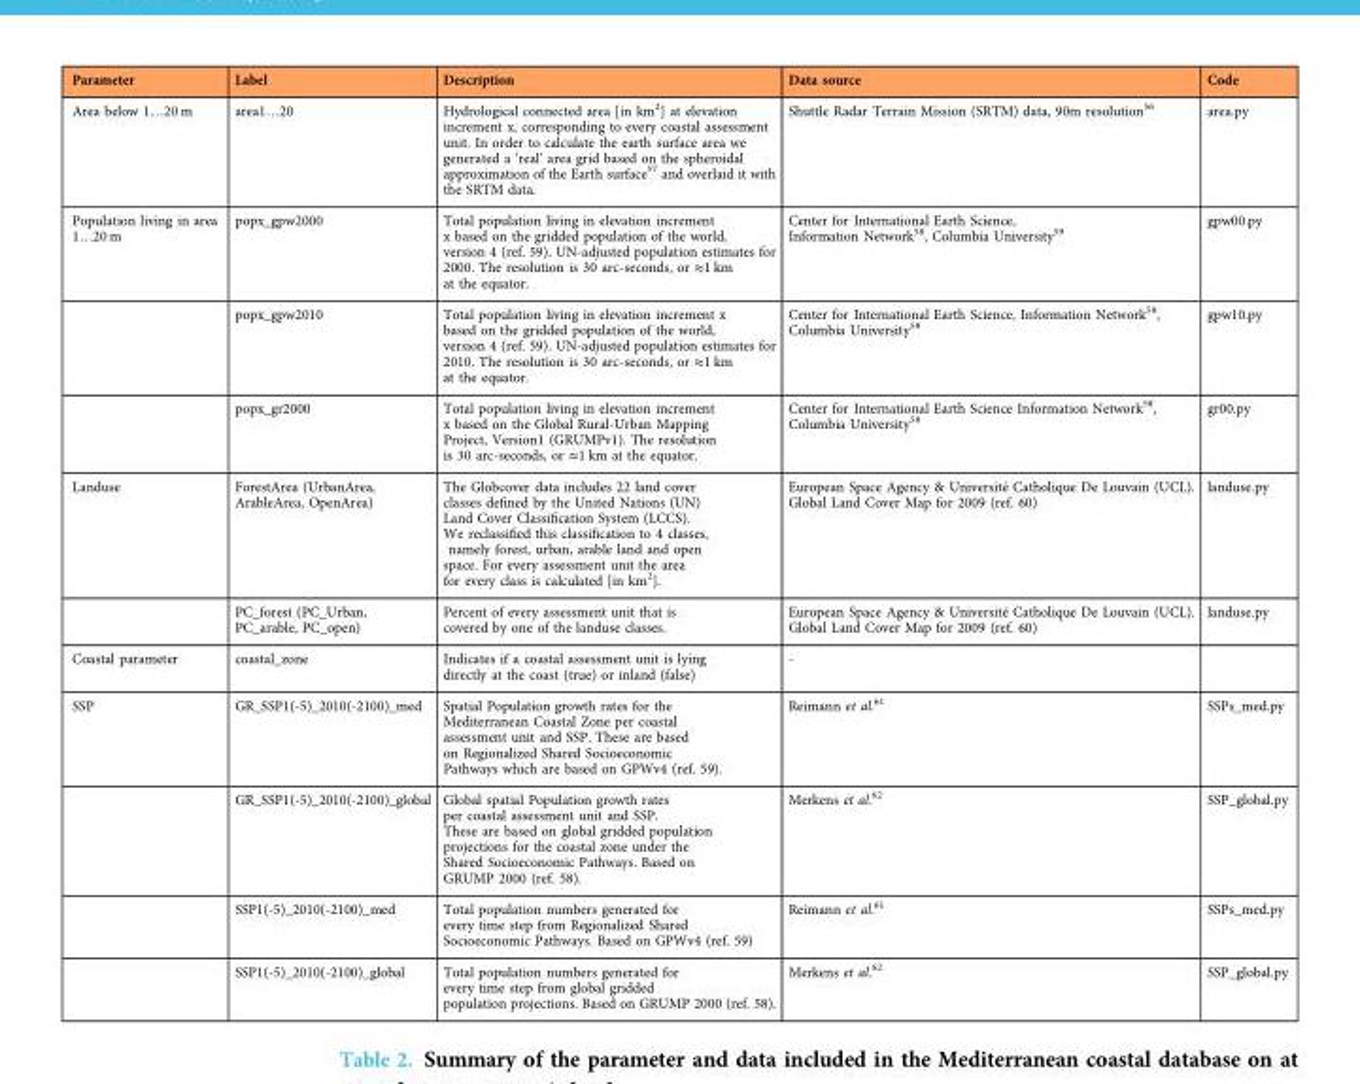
<table><thead><tr><td>Parameter</td><td>Label</td><td>Description</td><td>Data source</td><td>Code</td></tr></thead><tbody><tr><td>Area below 1…20 m</td><td>area1…20</td><td>Hydrological connected area [in km<sup>2</sup>] at elevation increment x, corresponding to every coastal assessment unit. In order to calculate the earth surface area we generated a ‘real’ area grid based on the spheroidal approximation of the Earth surface<sup>57</sup> and overlaid it with the SRTM data.</td><td>Shuttle Radar Terrain Mission (SRTM) data, 90m resolution<sup>56</sup></td><td>area.py</td></tr><tr><td rowspan="3">Population living in area 1…20 m</td><td>popx_gpw2000</td><td>Total population living in elevation increment x based on the gridded population of the world, version 4 (ref. 59). UN-adjusted population estimates for 2000. The resolution is 30 arc-seconds, or ≈1 km at the equator.</td><td>Center for International Earth Science, Information Network<sup>58</sup>, Columbia University<sup>59</sup></td><td>gpw00.py</td></tr><tr><td>popx_gpw2010</td><td>Total population living in elevation increment x based on the gridded population of the world, version 4 (ref. 59). UN-adjusted population estimates for 2010. The resolution is 30 arc-seconds, or ≈1 km at the equator.</td><td>Center for International Earth Science, Information Network<sup>58</sup>, Columbia University<sup>58</sup></td><td>gpw10.py</td></tr><tr><td>popx_gr2000</td><td>Total population living in elevation increment x based on the Global Rural-Urban Mapping Project, Version1 (GRUMPv1). The resolution is 30 arc-seconds, or ≈1 km at the equator.</td><td>Center for International Earth Science Information Network<sup>58</sup>, Columbia University<sup>58</sup></td><td>gr00.py</td></tr><tr><td rowspan="2">Landuse</td><td>ForestArea (UrbanArea, ArableArea, OpenArea)</td><td>The Globcover data includes 22 land cover classes defined by the United Nations (UN) Land Cover Classification System (LCCS). We reclassified this classification to 4 classes, namely forest, urban, arable land and open space. For every assessment unit the area for every class is calculated [in km<sup>2</sup>].</td><td>European Space Agency &amp; Université Catholique De Louvain (UCL). Global Land Cover Map for 2009 (ref. 60)</td><td>landuse.py</td></tr><tr><td>PC_forest (PC_Urban, PC_arable, PC_open)</td><td>Percent of every assessment unit that is covered by one of the landuse classes.</td><td>European Space Agency &amp; Université Catholique De Louvain (UCL). Global Land Cover Map for 2009 (ref. 60)</td><td>landuse.py</td></tr><tr><td>Coastal parameter</td><td>coastal_zone</td><td>Indicates if a coastal assessment unit is lying directly at the coast (true) or inland (false)</td><td>-</td><td></td></tr><tr><td rowspan="4">SSP</td><td>GR_SSP1(-5)_2010(-2100)_med</td><td>Spatial Population growth rates for the Mediterranean Coastal Zone per coastal assessment unit and SSP. These are based on Regionalized Shared Socioeconomic Pathways which are based on GPWv4 (ref. 59).</td><td>Reimann et al.<sup>61</sup></td><td>SSPs_med.py</td></tr><tr><td>GR_SSP1(-5)_2010(-2100)_global</td><td>Global spatial Population growth rates per coastal assessment unit and SSP. These are based on global gridded population projections for the coastal zone under the Shared Socioeconomic Pathways. Based on GRUMP 2000 (ref. 58).</td><td>Merkens et al.<sup>62</sup></td><td>SSP_global.py</td></tr><tr><td>SSP1(-5)_2010(-2100)_med</td><td>Total population numbers generated for every time step from Regionalized Shared Socioeconomic Pathways. Based on GPWv4 (ref. 59)</td><td>Reimann et al.<sup>61</sup></td><td>SSPs_med.py</td></tr><tr><td>SSP1(-5)_2010(-2100)_global</td><td>Total population numbers generated for every time step from global gridded population projections. Based on GRUMP 2000 (ref. 58).</td><td>Merkens et al.<sup>62</sup></td><td>SSP_global.py</td></tr></tbody></table>